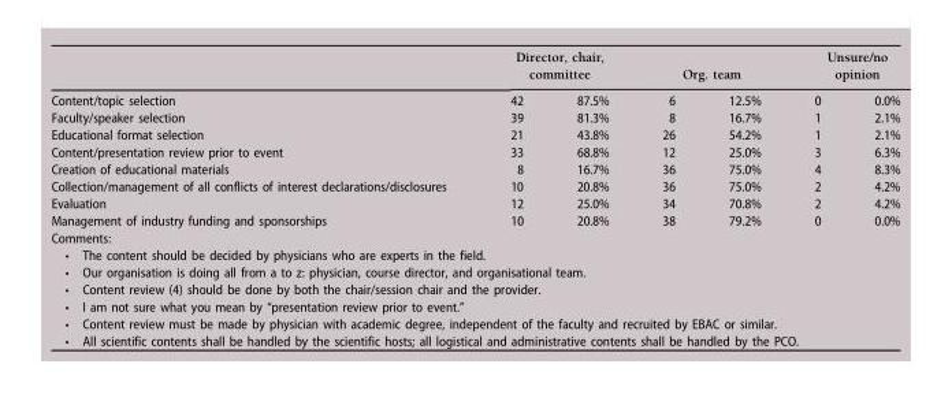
<table><thead><tr><td rowspan="2">Content/topic selection</td><td colspan="2">Director, chair, committee</td><td colspan="2">Org. team</td><td colspan="2">Unsure/no opinion</td></tr><tr><td>42</td><td>87.5%</td><td>6</td><td>12.5%</td><td>0</td><td>0.0%</td></tr></thead><tbody><tr><td>Faculty/speaker selection</td><td>39</td><td>81.3%</td><td>8</td><td>16.7%</td><td>1</td><td>2.1%</td></tr><tr><td>Educational format selection</td><td>21</td><td>43.8%</td><td>26</td><td>54.2%</td><td>1</td><td>2.1%</td></tr><tr><td>Content/presentation review prior to event</td><td>33</td><td>68.8%</td><td>12</td><td>25.0%</td><td>3</td><td>6.3%</td></tr><tr><td>Creation of educational materials</td><td>8</td><td>16.7%</td><td>36</td><td>75.0%</td><td>4</td><td>8.3%</td></tr><tr><td>Collection/management of all conflicts of interest declarations/disclosures</td><td>10</td><td>20.8%</td><td>36</td><td>75.0%</td><td>2</td><td>4.2%</td></tr><tr><td>Evaluation</td><td>12</td><td>25.0%</td><td>34</td><td>70.8%</td><td>2</td><td>4.2%</td></tr><tr><td>Management of industry funding and sponsorships</td><td>10</td><td>20.8%</td><td>38</td><td>79.2%</td><td>0</td><td>0.0%</td></tr><tr><td colspan="7">Comments: • The content should be decided by physicians who are experts in the field. • Our organisation is doing all from a to z: physician, course director, and organisational team. • Content review (4) should be done by both the chair/session chair and the provider. • I am not sure what you mean by “presentation review prior to event.” • Content review must be made by physician with academic degree, independent of the faculty and recruited by EBAC or similar. • All scientific contents shall be handled by the scientific hosts; all logistical and administrative contents shall be handled by the PCO.</td></tr></tbody></table>